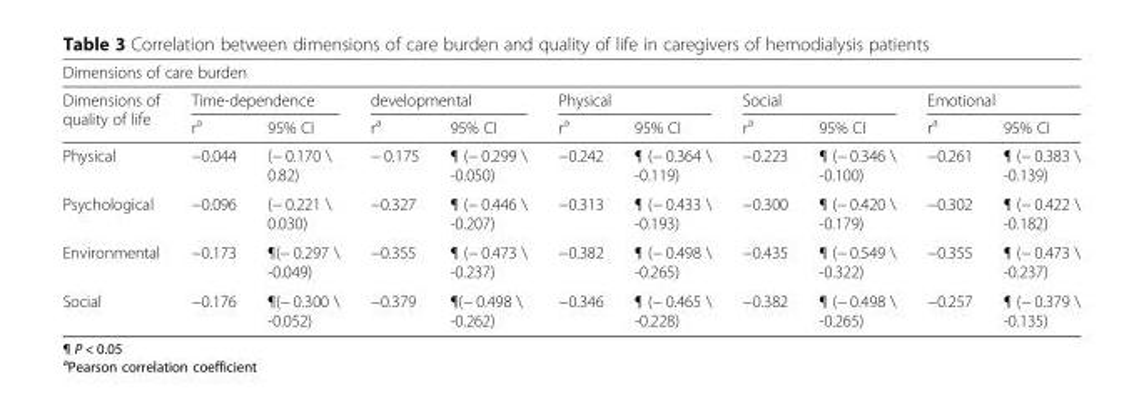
<table><thead><tr><td colspan="11">Dimensions of care burden</td></tr><tr><td rowspan="2">Dimensions of quality of life</td><td colspan="2">Time-dependence</td><td colspan="2">developmental</td><td colspan="2">Physical</td><td colspan="2">Social</td><td colspan="2">Emotional</td></tr><tr><td>r<sup>a</sup></td><td>95% CI</td><td>r<sup>a</sup></td><td>95% CI</td><td>r<sup>a</sup></td><td>95% CI</td><td>r<sup>a</sup></td><td>95% CI</td><td>r<sup>a</sup></td><td>95% CI</td></tr></thead><tbody><tr><td>Physical</td><td>−0.044</td><td>(− 0.170 \ 0.82)</td><td>− 0.175</td><td>¶ (− 0.299 \ -0.050)</td><td>−0.242</td><td>¶ (− 0.364 \ -0.119)</td><td>−0.223</td><td>¶ (− 0.346 \ -0.100)</td><td>−0.261</td><td>¶ (− 0.383 \ -0.139)</td></tr><tr><td>Psychological</td><td>−0.096</td><td>(− 0.221 \ 0.030)</td><td>−0.327</td><td>¶ (− 0.446 \ -0.207)</td><td>−0.313</td><td>¶ (− 0.433 \ -0.193)</td><td>−0.300</td><td>¶ (− 0.420 \ -0.179)</td><td>−0.302</td><td>¶ (− 0.422 \ -0.182)</td></tr><tr><td>Environmental</td><td>−0.173</td><td>¶(− 0.297 \ -0.049)</td><td>−0.355</td><td>¶ (− 0.473 \ -0.237)</td><td>−0.382</td><td>¶ (− 0.498 \ -0.265)</td><td>−0.435</td><td>¶ (− 0.549 \ -0.322)</td><td>−0.355</td><td>¶ (− 0.473 \ -0.237)</td></tr><tr><td>Social</td><td>−0.176</td><td>¶(− 0.300 \ -0.052)</td><td>−0.379</td><td>¶(− 0.498 \ -0.262)</td><td>−0.346</td><td>¶ (− 0.465 \ -0.228)</td><td>−0.382</td><td>¶ (− 0.498 \ -0.265)</td><td>−0.257</td><td>¶ (− 0.379 \ -0.135)</td></tr></tbody></table>